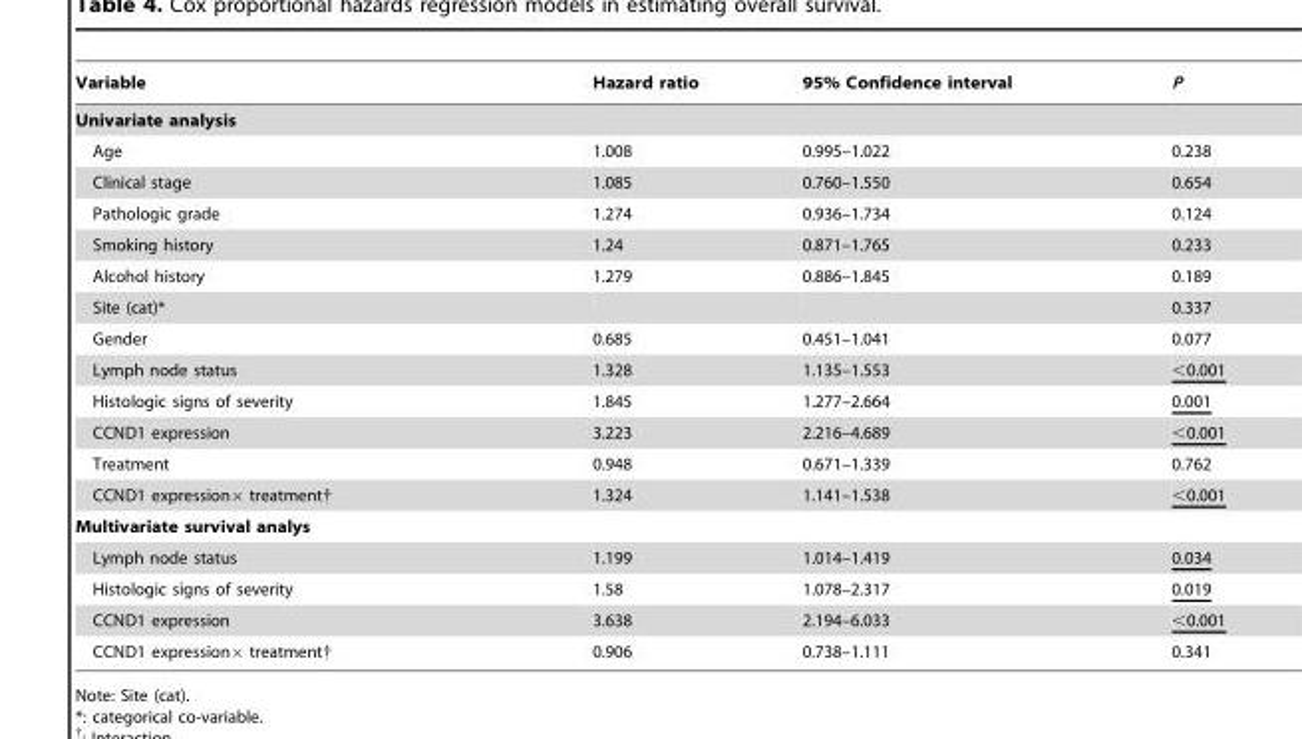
<table><thead><tr><td>Variable</td><td>Hazard ratio</td><td>95% Confidence interval</td><td>P</td></tr></thead><tbody><tr><td colspan="4">Univariate analysis</td></tr><tr><td>Age</td><td>1.008</td><td>0.995–1.022</td><td>0.238</td></tr><tr><td>Clinical stage</td><td>1.085</td><td>0.760–1.550</td><td>0.654</td></tr><tr><td>Pathologic grade</td><td>1.274</td><td>0.936–1.734</td><td>0.124</td></tr><tr><td>Smoking history</td><td>1.24</td><td>0.871–1.765</td><td>0.233</td></tr><tr><td>Alcohol history</td><td>1.279</td><td>0.886–1.845</td><td>0.189</td></tr><tr><td>Site (cat)*</td><td></td><td></td><td>0.337</td></tr><tr><td>Gender</td><td>0.685</td><td>0.451–1.041</td><td>0.077</td></tr><tr><td>Lymph node status</td><td>1.328</td><td>1.135–1.553</td><td>&lt;0.001</td></tr><tr><td>Histologic signs of severity</td><td>1.845</td><td>1.277–2.664</td><td>0.001</td></tr><tr><td>CCND1 expression</td><td>3.223</td><td>2.216–4.689</td><td>&lt;0.001</td></tr><tr><td>Treatment</td><td>0.948</td><td>0.671–1.339</td><td>0.762</td></tr><tr><td>CCND1 expression× treatment†</td><td>1.324</td><td>1.141–1.538</td><td>&lt;0.001</td></tr><tr><td colspan="4">Multivariate survival analys</td></tr><tr><td>Lymph node status</td><td>1.199</td><td>1.014–1.419</td><td>0.034</td></tr><tr><td>Histologic signs of severity</td><td>1.58</td><td>1.078–2.317</td><td>0.019</td></tr><tr><td>CCND1 expression</td><td>3.638</td><td>2.194–6.033</td><td>&lt;0.001</td></tr><tr><td>CCND1 expression× treatment†</td><td>0.906</td><td>0.738–1.111</td><td>0.341</td></tr></tbody></table>